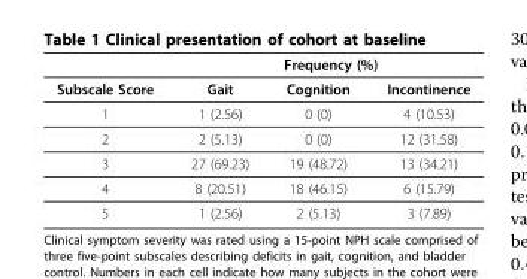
<table><thead><tr><td rowspan="2">Subscale Score</td><td colspan="3">Frequency (%)</td></tr><tr><td>Gait</td><td>Cognition</td><td>Incontinence</td></tr></thead><tbody><tr><td>1</td><td>1 (2.56)</td><td>0 (0)</td><td>4 (10.53)</td></tr><tr><td>2</td><td>2 (5.13)</td><td>0 (0)</td><td>12 (31.58)</td></tr><tr><td>3</td><td>27 (69.23)</td><td>19 (48.72)</td><td>13 (34.21)</td></tr><tr><td>4</td><td>8 (20.51)</td><td>18 (46.15)</td><td>6 (15.79)</td></tr><tr><td>5</td><td>1 (2.56)</td><td>2 (5.13)</td><td>3 (7.89)</td></tr></tbody></table>